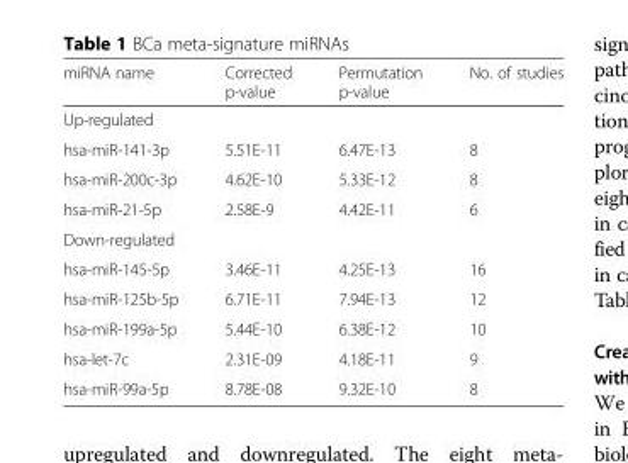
<table><thead><tr><td>miRNA name</td><td>Corrected p-value</td><td>Permutation p-value</td><td>No. of studies</td></tr></thead><tbody><tr><td colspan="4">Up-regulated</td></tr><tr><td>hsa-miR-141-3p</td><td>5.51E-11</td><td>6.47E-13</td><td>8</td></tr><tr><td>hsa-miR-200c-3p</td><td>4.62E-10</td><td>5.33E-12</td><td>8</td></tr><tr><td>hsa-miR-21-5p</td><td>2.58E-9</td><td>4.42E-11</td><td>6</td></tr><tr><td colspan="4">Down-regulated</td></tr><tr><td>hsa-miR-145-5p</td><td>3.46E-11</td><td>4.25E-13</td><td>16</td></tr><tr><td>hsa-miR-125b-5p</td><td>6.71E-11</td><td>7.94E-13</td><td>12</td></tr><tr><td>hsa-miR-199a-5p</td><td>5.44E-10</td><td>6.38E-12</td><td>10</td></tr><tr><td>hsa-let-7c</td><td>2.31E-09</td><td>4.18E-11</td><td>9</td></tr><tr><td>hsa-miR-99a-5p</td><td>8.78E-08</td><td>9.32E-10</td><td>8</td></tr></tbody></table>